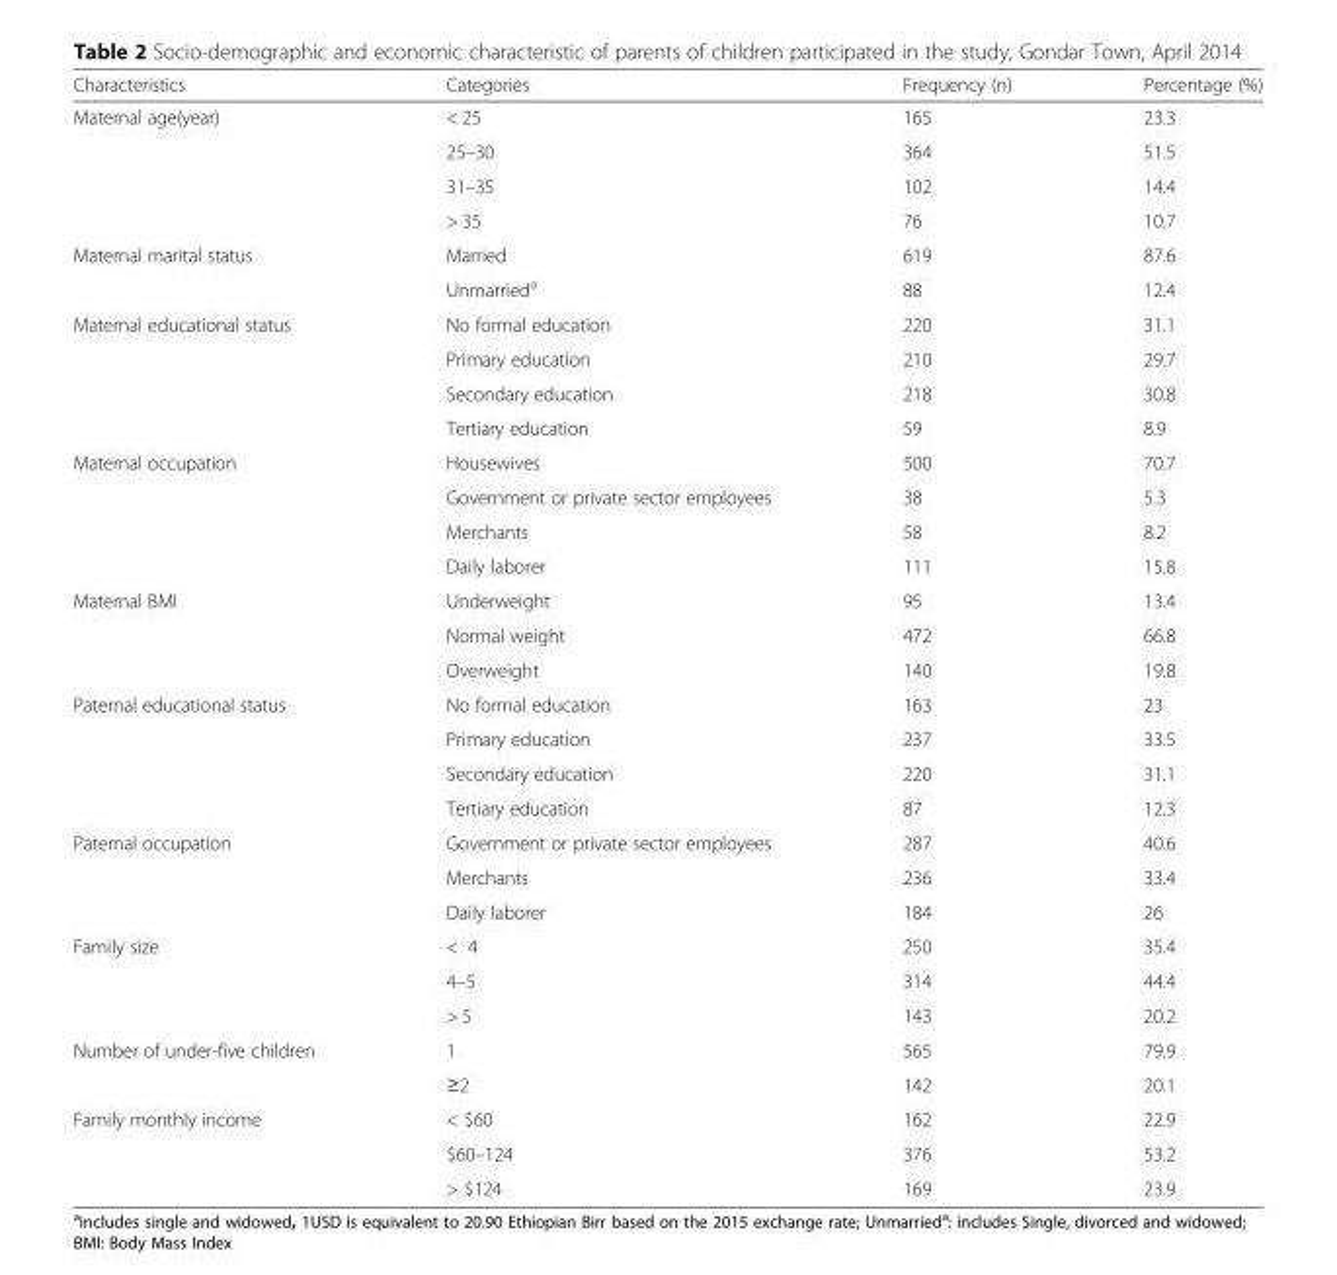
<table><thead><tr><td>Characteristics</td><td>Categories</td><td>Frequency (n)</td><td>Percentage (%)</td></tr></thead><tbody><tr><td rowspan="4">Maternal age(year)</td><td>&lt; 25</td><td>165</td><td>23.3</td></tr><tr><td>25–30</td><td>364</td><td>51.5</td></tr><tr><td>31–35</td><td>102</td><td>14.4</td></tr><tr><td>&gt; 35</td><td>76</td><td>10.7</td></tr><tr><td rowspan="2">Maternal marital status</td><td>Married</td><td>619</td><td>87.6</td></tr><tr><td>Unmarried<sup>a</sup></td><td>88</td><td>12.4</td></tr><tr><td rowspan="4">Maternal educational status</td><td>No formal education</td><td>220</td><td>31.1</td></tr><tr><td>Primary education</td><td>210</td><td>29.7</td></tr><tr><td>Secondary education</td><td>218</td><td>30.8</td></tr><tr><td>Tertiary education</td><td>59</td><td>8.9</td></tr><tr><td rowspan="4">Maternal occupation</td><td>Housewives</td><td>500</td><td>70.7</td></tr><tr><td>Government or private sector employees</td><td>38</td><td>5.3</td></tr><tr><td>Merchants</td><td>58</td><td>8.2</td></tr><tr><td>Daily laborer</td><td>111</td><td>15.8</td></tr><tr><td rowspan="3">Maternal BMI</td><td>Underweight</td><td>95</td><td>13.4</td></tr><tr><td>Normal weight</td><td>472</td><td>66.8</td></tr><tr><td>Overweight</td><td>140</td><td>19.8</td></tr><tr><td rowspan="4">Paternal educational status</td><td>No formal education</td><td>163</td><td>23</td></tr><tr><td>Primary education</td><td>237</td><td>33.5</td></tr><tr><td>Secondary education</td><td>220</td><td>31.1</td></tr><tr><td>Tertiary education</td><td>87</td><td>12.3</td></tr><tr><td rowspan="3">Paternal occupation</td><td>Government or private sector employees</td><td>287</td><td>40.6</td></tr><tr><td>Merchants</td><td>236</td><td>33.4</td></tr><tr><td>Daily laborer</td><td>184</td><td>26</td></tr><tr><td rowspan="3">Family size</td><td>&lt; 4</td><td>250</td><td>35.4</td></tr><tr><td>4–5</td><td>314</td><td>44.4</td></tr><tr><td>&gt; 5</td><td>143</td><td>20.2</td></tr><tr><td rowspan="2">Number of under-five children</td><td>1</td><td>565</td><td>79.9</td></tr><tr><td>≥2</td><td>142</td><td>20.1</td></tr><tr><td rowspan="3">Family monthly income</td><td>&lt; $60</td><td>162</td><td>22.9</td></tr><tr><td>$60–124</td><td>376</td><td>53.2</td></tr><tr><td>&gt; $124</td><td>169</td><td>23.9</td></tr></tbody></table>